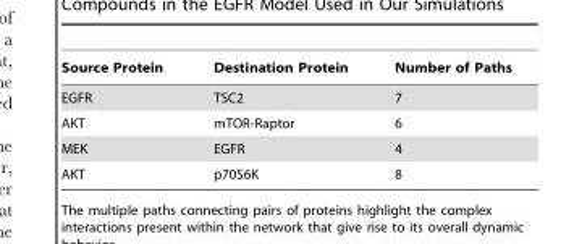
<table><thead><tr><td>Source Protein</td><td>Destination Protein</td><td>Number of Paths</td></tr></thead><tbody><tr><td>EGFR</td><td>TSC2</td><td>7</td></tr><tr><td>AKT</td><td>mTOR-Raptor</td><td>6</td></tr><tr><td>MEK</td><td>EGFR</td><td>4</td></tr><tr><td>AKT</td><td>p70S6K</td><td>8</td></tr></tbody></table>